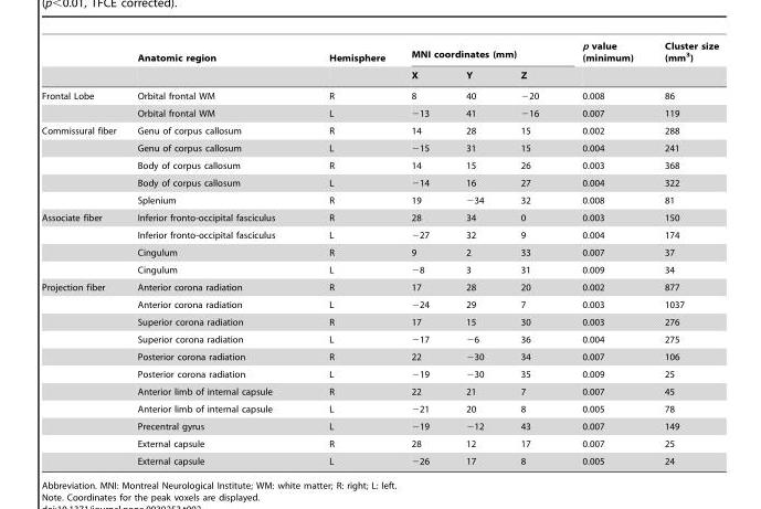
<table><thead><tr><td rowspan="2"></td><td rowspan="2">Anatomic region</td><td rowspan="2">Hemisphere</td><td colspan="3">MNI coordinates (mm)</td><td rowspan="2">p value (minimum)</td><td rowspan="2">Cluster size (mm<sup>3</sup>)</td></tr><tr><td>X</td><td>Y</td><td>Z</td></tr></thead><tbody><tr><td rowspan="2">Frontal Lobe</td><td>Orbital frontal WM</td><td>R</td><td>8</td><td>40</td><td>−20</td><td>0.008</td><td>86</td></tr><tr><td>Orbital frontal WM</td><td>L</td><td>−13</td><td>41</td><td>−16</td><td>0.007</td><td>119</td></tr><tr><td rowspan="5">Commissural fiber</td><td>Genu of corpus callosum</td><td>R</td><td>14</td><td>28</td><td>15</td><td>0.002</td><td>288</td></tr><tr><td>Genu of corpus callosum</td><td>L</td><td>−15</td><td>31</td><td>15</td><td>0.004</td><td>241</td></tr><tr><td>Body of corpus callosum</td><td>R</td><td>14</td><td>15</td><td>26</td><td>0.003</td><td>368</td></tr><tr><td>Body of corpus callosum</td><td>L</td><td>−14</td><td>16</td><td>27</td><td>0.004</td><td>322</td></tr><tr><td>Splenium</td><td>R</td><td>19</td><td>−34</td><td>32</td><td>0.008</td><td>81</td></tr><tr><td rowspan="4">Associate fiber</td><td>Inferior fronto-occipital fasciculus</td><td>R</td><td>28</td><td>34</td><td>0</td><td>0.003</td><td>150</td></tr><tr><td>Inferior fronto-occipital fasciculus</td><td>L</td><td>−27</td><td>32</td><td>9</td><td>0.004</td><td>174</td></tr><tr><td>Cingulum</td><td>R</td><td>9</td><td>2</td><td>33</td><td>0.007</td><td>37</td></tr><tr><td>Cingulum</td><td>L</td><td>−8</td><td>3</td><td>31</td><td>0.009</td><td>34</td></tr><tr><td rowspan="11">Projection fiber</td><td>Anterior corona radiation</td><td>R</td><td>17</td><td>28</td><td>20</td><td>0.002</td><td>877</td></tr><tr><td>Anterior corona radiation</td><td>L</td><td>−24</td><td>29</td><td>7</td><td>0.003</td><td>1037</td></tr><tr><td>Superior corona radiation</td><td>R</td><td>17</td><td>15</td><td>30</td><td>0.003</td><td>276</td></tr><tr><td>Superior corona radiation</td><td>L</td><td>−17</td><td>−6</td><td>36</td><td>0.004</td><td>275</td></tr><tr><td>Posterior corona radiation</td><td>R</td><td>22</td><td>−30</td><td>34</td><td>0.007</td><td>106</td></tr><tr><td>Posterior corona radiation</td><td>L</td><td>−19</td><td>−30</td><td>35</td><td>0.009</td><td>25</td></tr><tr><td>Anterior limb of internal capsule</td><td>R</td><td>22</td><td>21</td><td>7</td><td>0.007</td><td>45</td></tr><tr><td>Anterior limb of internal capsule</td><td>L</td><td>−21</td><td>20</td><td>8</td><td>0.005</td><td>78</td></tr><tr><td>Precentral gyrus</td><td>L</td><td>−19</td><td>−12</td><td>43</td><td>0.007</td><td>149</td></tr><tr><td>External capsule</td><td>R</td><td>28</td><td>12</td><td>17</td><td>0.007</td><td>25</td></tr><tr><td>External capsule</td><td>L</td><td>−26</td><td>17</td><td>8</td><td>0.005</td><td>24</td></tr></tbody></table>